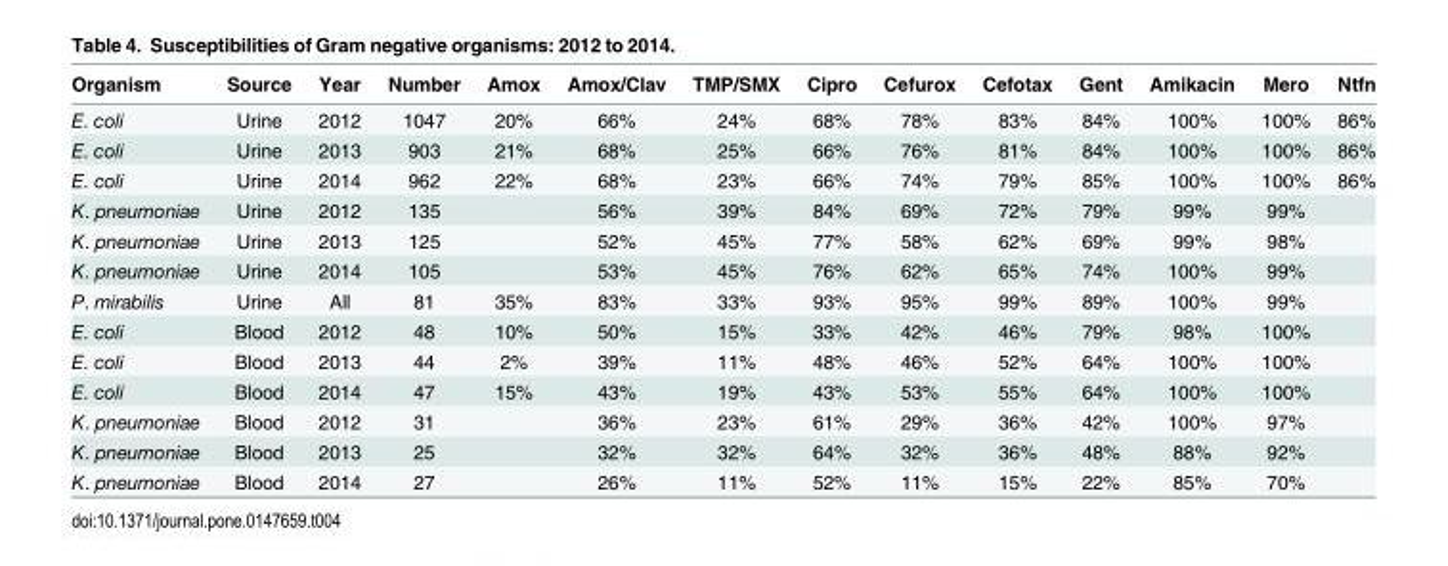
<table><thead><tr><td>Organism</td><td>Source</td><td>Year</td><td>Number</td><td>Amox</td><td>Amox/Clav</td><td>TMP/SMX</td><td>Cipro</td><td>Cefurox</td><td>Cefotax</td><td>Gent</td><td>Amikacin</td><td>Mero</td><td>Ntfn</td></tr></thead><tbody><tr><td>E. coli</td><td>Urine</td><td>2012</td><td>1047</td><td>20%</td><td>66%</td><td>24%</td><td>68%</td><td>78%</td><td>83%</td><td>84%</td><td>100%</td><td>100%</td><td>86%</td></tr><tr><td>E. coli</td><td>Urine</td><td>2013</td><td>903</td><td>21%</td><td>68%</td><td>25%</td><td>66%</td><td>76%</td><td>81%</td><td>84%</td><td>100%</td><td>100%</td><td>86%</td></tr><tr><td>E. coli</td><td>Urine</td><td>2014</td><td>962</td><td>22%</td><td>68%</td><td>23%</td><td>66%</td><td>74%</td><td>79%</td><td>85%</td><td>100%</td><td>100%</td><td>86%</td></tr><tr><td>K. pneumoniae</td><td>Urine</td><td>2012</td><td>135</td><td></td><td>56%</td><td>39%</td><td>84%</td><td>69%</td><td>72%</td><td>79%</td><td>99%</td><td>99%</td><td></td></tr><tr><td>K. pneumoniae</td><td>Urine</td><td>2013</td><td>125</td><td></td><td>52%</td><td>45%</td><td>77%</td><td>58%</td><td>62%</td><td>69%</td><td>99%</td><td>98%</td><td></td></tr><tr><td>K. pneumoniae</td><td>Urine</td><td>2014</td><td>105</td><td></td><td>53%</td><td>45%</td><td>76%</td><td>62%</td><td>65%</td><td>74%</td><td>100%</td><td>99%</td><td></td></tr><tr><td>P. mirabilis</td><td>Urine</td><td>All</td><td>81</td><td>35%</td><td>83%</td><td>33%</td><td>93%</td><td>95%</td><td>99%</td><td>89%</td><td>100%</td><td>99%</td><td></td></tr><tr><td>E. coli</td><td>Blood</td><td>2012</td><td>48</td><td>10%</td><td>50%</td><td>15%</td><td>33%</td><td>42%</td><td>46%</td><td>79%</td><td>98%</td><td>100%</td><td></td></tr><tr><td>E. coli</td><td>Blood</td><td>2013</td><td>44</td><td>2%</td><td>39%</td><td>11%</td><td>48%</td><td>46%</td><td>52%</td><td>64%</td><td>100%</td><td>100%</td><td></td></tr><tr><td>E. coli</td><td>Blood</td><td>2014</td><td>47</td><td>15%</td><td>43%</td><td>19%</td><td>43%</td><td>53%</td><td>55%</td><td>64%</td><td>100%</td><td>100%</td><td></td></tr><tr><td>K. pneumoniae</td><td>Blood</td><td>2012</td><td>31</td><td></td><td>36%</td><td>23%</td><td>61%</td><td>29%</td><td>36%</td><td>42%</td><td>100%</td><td>97%</td><td></td></tr><tr><td>K. pneumoniae</td><td>Blood</td><td>2013</td><td>25</td><td></td><td>32%</td><td>32%</td><td>64%</td><td>32%</td><td>36%</td><td>48%</td><td>88%</td><td>92%</td><td></td></tr><tr><td>K. pneumoniae</td><td>Blood</td><td>2014</td><td>27</td><td></td><td>26%</td><td>11%</td><td>52%</td><td>11%</td><td>15%</td><td>22%</td><td>85%</td><td>70%</td><td></td></tr></tbody></table>